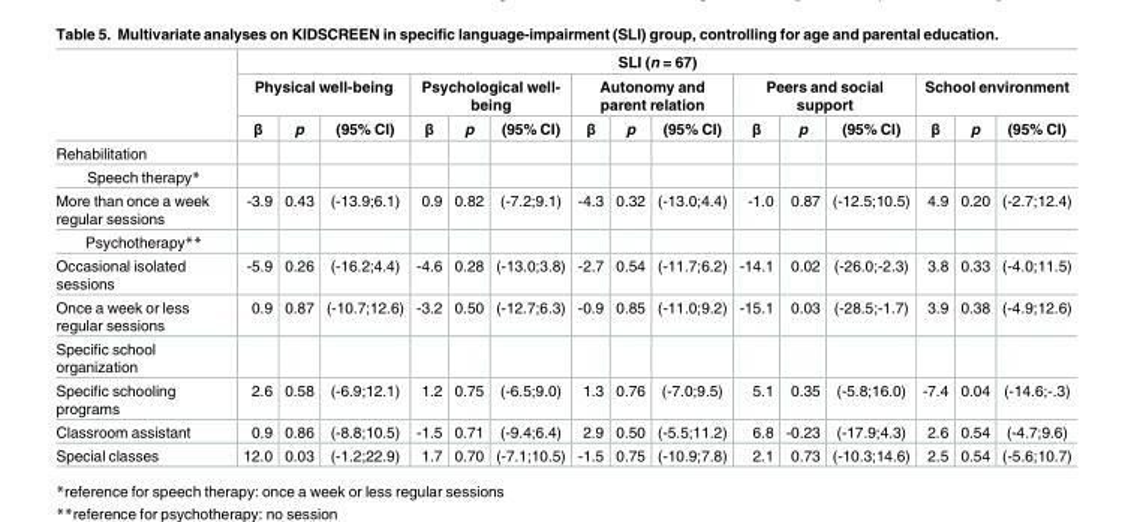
<table><thead><tr><td rowspan="3"></td><td colspan="15">SLI (n = 67)</td></tr><tr><td colspan="3">Physical well-being</td><td colspan="3">Psychological well- being</td><td colspan="3">Autonomy and parent relation</td><td colspan="3">Peers and social support</td><td colspan="3">School environment</td></tr><tr><td>β</td><td>p</td><td>(95% CI)</td><td>β</td><td>p</td><td>(95% CI)</td><td>β</td><td>p</td><td>(95% CI)</td><td>β</td><td>p</td><td>(95% CI)</td><td>β</td><td>p</td><td>(95% CI)</td></tr></thead><tbody><tr><td colspan="16">Rehabilitation</td></tr><tr><td colspan="16">Speech therapy*</td></tr><tr><td>More than once a week regular sessions</td><td>-3.9</td><td>0.43</td><td>(-13.9;6.1)</td><td>0.9</td><td>0.82</td><td>(-7.2;9.1)</td><td>-4.3</td><td>0.32</td><td>(-13.0;4.4)</td><td>-1.0</td><td>0.87</td><td>(-12.5;10.5)</td><td>4.9</td><td>0.20</td><td>(-2.7;12.4)</td></tr><tr><td colspan="16">Psychotherapy**</td></tr><tr><td>Occasional isolated sessions</td><td>-5.9</td><td>0.26</td><td>(-16.2;4.4)</td><td>-4.6</td><td>0.28</td><td>(-13.0;3.8)</td><td>-2.7</td><td>0.54</td><td>(-11.7;6.2)</td><td>-14.1</td><td>0.02</td><td>(-26.0;-2.3)</td><td>3.8</td><td>0.33</td><td>(-4.0;11.5)</td></tr><tr><td>Once a week or less regular sessions</td><td>0.9</td><td>0.87</td><td>(-10.7;12.6)</td><td>-3.2</td><td>0.50</td><td>(-12.7;6.3)</td><td>-0.9</td><td>0.85</td><td>(-11.0;9.2)</td><td>-15.1</td><td>0.03</td><td>(-28.5;-1.7)</td><td>3.9</td><td>0.38</td><td>(-4.9;12.6)</td></tr><tr><td colspan="16">Specific school organization</td></tr><tr><td>Specific schooling programs</td><td>2.6</td><td>0.58</td><td>(-6.9;12.1)</td><td>1.2</td><td>0.75</td><td>(-6.5;9.0)</td><td>1.3</td><td>0.76</td><td>(-7.0;9.5)</td><td>5.1</td><td>0.35</td><td>(-5.8;16.0)</td><td>-7.4</td><td>0.04</td><td>(-14.6;-.3)</td></tr><tr><td>Classroom assistant</td><td>0.9</td><td>0.86</td><td>(-8.8;10.5)</td><td>-1.5</td><td>0.71</td><td>(-9.4;6.4)</td><td>2.9</td><td>0.50</td><td>(-5.5;11.2)</td><td>6.8</td><td>-0.23</td><td>(-17.9;4.3)</td><td>2.6</td><td>0.54</td><td>(-4.7;9.6)</td></tr><tr><td>Special classes</td><td>12.0</td><td>0.03</td><td>(-1.2;22.9)</td><td>1.7</td><td>0.70</td><td>(-7.1;10.5)</td><td>-1.5</td><td>0.75</td><td>(-10.9;7.8)</td><td>2.1</td><td>0.73</td><td>(-10.3;14.6)</td><td>2.5</td><td>0.54</td><td>(-5.6;10.7)</td></tr></tbody></table>